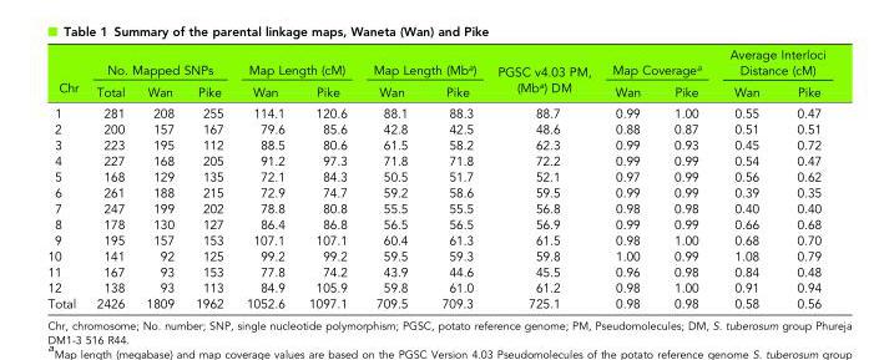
<table><thead><tr><td rowspan="2">Chr</td><td colspan="3">No. Mapped SNPs</td><td colspan="2">Map Length (cM)</td><td colspan="2">Map Length (Mb<sup>a</sup>)</td><td rowspan="2">PGSC v4.03 PM, (Mb<sup>a</sup>) DM</td><td colspan="2">Map Coverage<sup>a</sup></td><td colspan="2">Average Interloci Distance (cM)</td></tr><tr><td>Total</td><td>Wan</td><td>Pike</td><td>Wan</td><td>Pike</td><td>Wan</td><td>Pike</td><td>Wan</td><td>Pike</td><td>Wan</td><td>Pike</td></tr></thead><tbody><tr><td>1</td><td>281</td><td>208</td><td>255</td><td>114.1</td><td>120.6</td><td>88.1</td><td>88.3</td><td>88.7</td><td>0.99</td><td>1.00</td><td>0.55</td><td>0.47</td></tr><tr><td>2</td><td>200</td><td>157</td><td>167</td><td>79.6</td><td>85.6</td><td>42.8</td><td>42.5</td><td>48.6</td><td>0.88</td><td>0.87</td><td>0.51</td><td>0.51</td></tr><tr><td>3</td><td>223</td><td>195</td><td>112</td><td>88.5</td><td>80.6</td><td>61.5</td><td>58.2</td><td>62.3</td><td>0.99</td><td>0.93</td><td>0.45</td><td>0.72</td></tr><tr><td>4</td><td>227</td><td>168</td><td>205</td><td>91.2</td><td>97.3</td><td>71.8</td><td>71.8</td><td>72.2</td><td>0.99</td><td>0.99</td><td>0.54</td><td>0.47</td></tr><tr><td>5</td><td>168</td><td>129</td><td>135</td><td>72.1</td><td>84.3</td><td>50.5</td><td>51.7</td><td>52.1</td><td>0.97</td><td>0.99</td><td>0.56</td><td>0.62</td></tr><tr><td>6</td><td>261</td><td>188</td><td>215</td><td>72.9</td><td>74.7</td><td>59.2</td><td>58.6</td><td>59.5</td><td>0.99</td><td>0.99</td><td>0.39</td><td>0.35</td></tr><tr><td>7</td><td>247</td><td>199</td><td>202</td><td>78.8</td><td>80.8</td><td>55.5</td><td>55.5</td><td>56.8</td><td>0.98</td><td>0.98</td><td>0.40</td><td>0.40</td></tr><tr><td>8</td><td>178</td><td>130</td><td>127</td><td>86.4</td><td>86.8</td><td>56.5</td><td>56.5</td><td>56.9</td><td>0.99</td><td>0.99</td><td>0.66</td><td>0.68</td></tr><tr><td>9</td><td>195</td><td>157</td><td>153</td><td>107.1</td><td>107.1</td><td>60.4</td><td>61.3</td><td>61.5</td><td>0.98</td><td>1.00</td><td>0.68</td><td>0.70</td></tr><tr><td>10</td><td>141</td><td>92</td><td>125</td><td>99.2</td><td>99.2</td><td>59.5</td><td>59.3</td><td>59.8</td><td>1.00</td><td>0.99</td><td>1.08</td><td>0.79</td></tr><tr><td>11</td><td>167</td><td>93</td><td>153</td><td>77.8</td><td>74.2</td><td>43.9</td><td>44.6</td><td>45.5</td><td>0.96</td><td>0.98</td><td>0.84</td><td>0.48</td></tr><tr><td>12</td><td>138</td><td>93</td><td>113</td><td>84.9</td><td>105.9</td><td>59.8</td><td>61.0</td><td>61.2</td><td>0.98</td><td>1.00</td><td>0.91</td><td>0.94</td></tr><tr><td>Total</td><td>2426</td><td>1809</td><td>1962</td><td>1052.6</td><td>1097.1</td><td>709.5</td><td>709.3</td><td>725.1</td><td>0.98</td><td>0.98</td><td>0.58</td><td>0.56</td></tr></tbody></table>